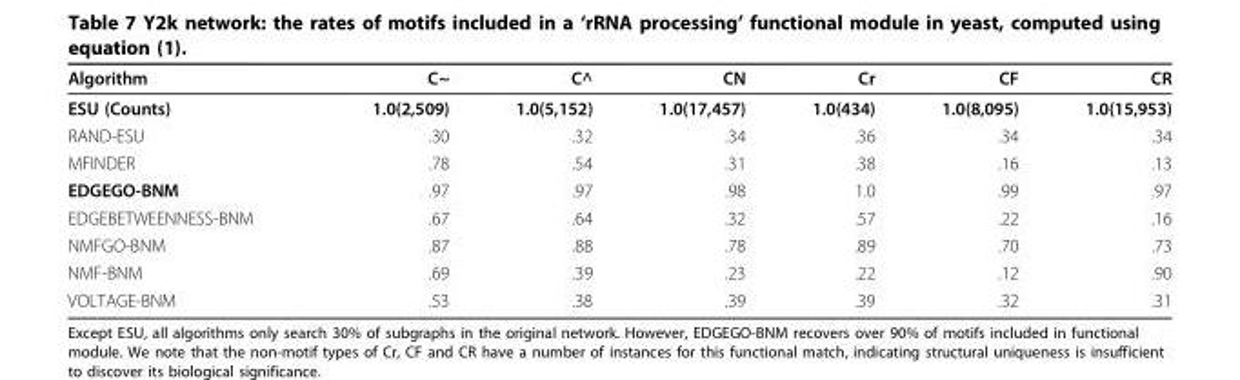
<table><thead><tr><td>Algorithm</td><td>C~</td><td>C^</td><td>CN</td><td>Cr</td><td>CF</td><td>CR</td></tr></thead><tbody><tr><td>ESU (Counts)</td><td>1.0(2,509)</td><td>1.0(5,152)</td><td>1.0(17,457)</td><td>1.0(434)</td><td>1.0(8,095)</td><td>1.0(15,953)</td></tr><tr><td>RAND-ESU</td><td>.30</td><td>.32</td><td>.34</td><td>.36</td><td>.34</td><td>.34</td></tr><tr><td>MFINDER</td><td>.78</td><td>.54</td><td>.31</td><td>.38</td><td>.16</td><td>.13</td></tr><tr><td>EDGEGO-BNM</td><td>.97</td><td>.97</td><td>.98</td><td>1.0</td><td>.99</td><td>.97</td></tr><tr><td>EDGEBETWEENNESS-BNM</td><td>.67</td><td>.64</td><td>.32</td><td>.57</td><td>.22</td><td>.16</td></tr><tr><td>NMFGO-BNM</td><td>.87</td><td>.88</td><td>.78</td><td>.89</td><td>.70</td><td>.73</td></tr><tr><td>NMF-BNM</td><td>.69</td><td>.39</td><td>.23</td><td>.22</td><td>.12</td><td>.90</td></tr><tr><td>VOLTAGE-BNM</td><td>.53</td><td>.38</td><td>.39</td><td>.39</td><td>.32</td><td>.31</td></tr></tbody></table>